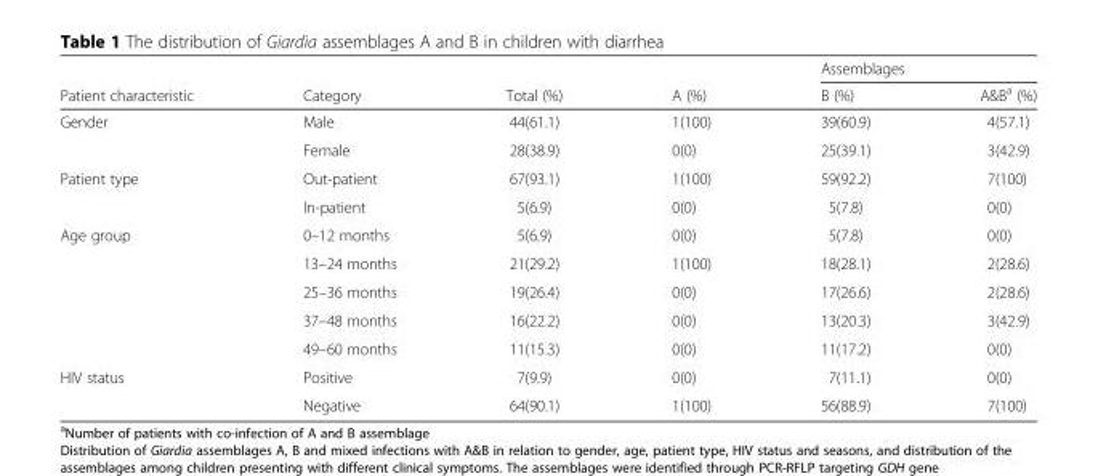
<table><thead><tr><td rowspan="2">Patient characteristic</td><td rowspan="2">Category</td><td rowspan="2">Total (%)</td><td rowspan="2">A (%)</td><td colspan="2">Assemblages</td></tr><tr><td>B (%)</td><td>A&amp;B<sup>a</sup> (%)</td></tr></thead><tbody><tr><td rowspan="2">Gender</td><td>Male</td><td>44(61.1)</td><td>1(100)</td><td>39(60.9)</td><td>4(57.1)</td></tr><tr><td>Female</td><td>28(38.9)</td><td>0(0)</td><td>25(39.1)</td><td>3(42.9)</td></tr><tr><td rowspan="2">Patient type</td><td>Out-patient</td><td>67(93.1)</td><td>1(100)</td><td>59(92.2)</td><td>7(100)</td></tr><tr><td>In-patient</td><td>5(6.9)</td><td>0(0)</td><td>5(7.8)</td><td>0(0)</td></tr><tr><td rowspan="5">Age group</td><td>0–12 months</td><td>5(6.9)</td><td>0(0)</td><td>5(7.8)</td><td>0(0)</td></tr><tr><td>13–24 months</td><td>21(29.2)</td><td>1(100)</td><td>18(28.1)</td><td>2(28.6)</td></tr><tr><td>25–36 months</td><td>19(26.4)</td><td>0(0)</td><td>17(26.6)</td><td>2(28.6)</td></tr><tr><td>37–48 months</td><td>16(22.2)</td><td>0(0)</td><td>13(20.3)</td><td>3(42.9)</td></tr><tr><td>49–60 months</td><td>11(15.3)</td><td>0(0)</td><td>11(17.2)</td><td>0(0)</td></tr><tr><td rowspan="2">HIV status</td><td>Positive</td><td>7(9.9)</td><td>0(0)</td><td>7(11.1)</td><td>0(0)</td></tr><tr><td>Negative</td><td>64(90.1)</td><td>1(100)</td><td>56(88.9)</td><td>7(100)</td></tr></tbody></table>